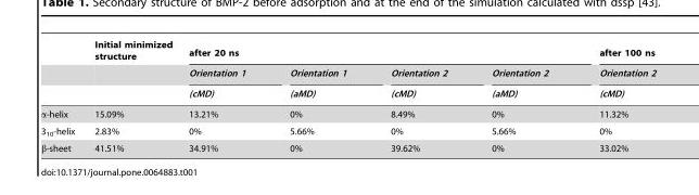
<table><thead><tr><td rowspan="3"></td><td rowspan="3">Initial minimized structure</td><td colspan="4">after 20 ns</td><td rowspan="3">after 100 ns Orientation 2 (cMD)</td></tr><tr><td rowspan="2">Orientation 1 (cMD)</td><td rowspan="2">Orientation 1 (aMD)</td><td rowspan="2">Orientation 2 (cMD)</td><td rowspan="2">Orientation 2 (aMD)</td></tr><tr></tr></thead><tbody><tr><td>α-helix</td><td>15.09%</td><td>13.21%</td><td>0%</td><td>8.49%</td><td>0%</td><td>11.32%</td></tr><tr><td>3<sub>10</sub>-helix</td><td>2.83%</td><td>0%</td><td>5.66%</td><td>0%</td><td>5.66%</td><td>0%</td></tr><tr><td>β-sheet</td><td>41.51%</td><td>34.91%</td><td>0%</td><td>39.62%</td><td>0%</td><td>33.02%</td></tr></tbody></table>